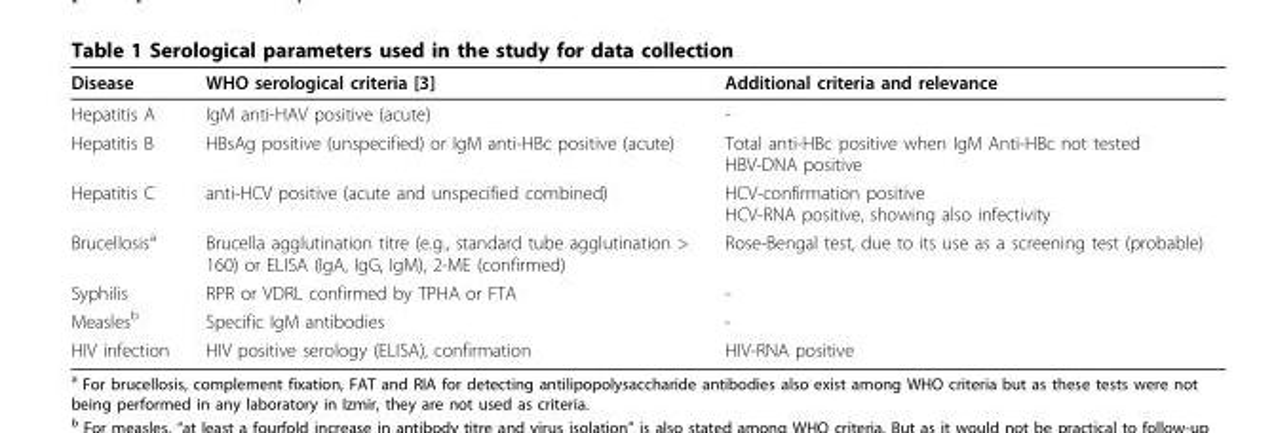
<table><thead><tr><td>Disease</td><td>WHO serological criteria [3]</td><td>Additional criteria and relevance</td></tr></thead><tbody><tr><td>Hepatitis A</td><td>IgM anti-HAV positive (acute)</td><td>-</td></tr><tr><td>Hepatitis B</td><td>HBsAg positive (unspecified) or IgM anti-HBc positive (acute)</td><td>Total anti-HBc positive when IgM Anti-HBc not tested HBV-DNA positive</td></tr><tr><td>Hepatitis C</td><td>anti-HCV positive (acute and unspecified combined)</td><td>HCV-confirmation positive HCV-RNA positive, showing also infectivity</td></tr><tr><td>Brucellosis<sup>a</sup></td><td>Brucella agglutination titre (e.g., standard tube agglutination &gt; 160) or ELISA (IgA, IgG, IgM), 2-ME (confirmed)</td><td>Rose-Bengal test, due to its use as a screening test (probable)</td></tr><tr><td>Syphilis</td><td>RPR or VDRL confirmed by TPHA or FTA</td><td>-</td></tr><tr><td>Measles<sup>b</sup></td><td>Specific IgM antibodies</td><td>-</td></tr><tr><td>HIV infection</td><td>HIV positive serology (ELISA), confirmation</td><td>HIV-RNA positive</td></tr></tbody></table>